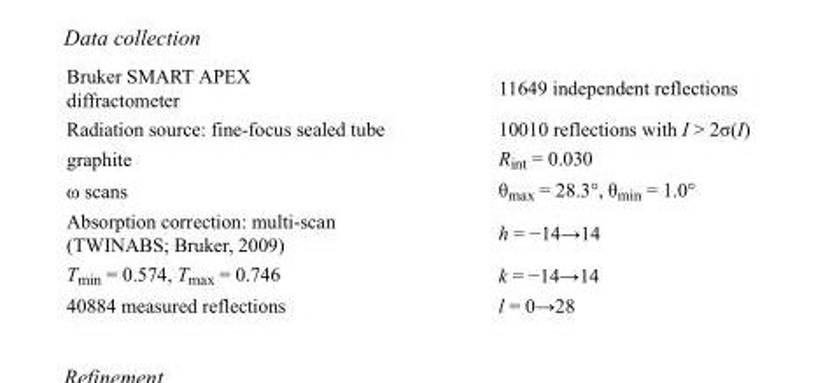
<table><tbody><tr><td>Bruker SMART APEX diffractometer</td><td>11649 independent reflections</td></tr><tr><td>Radiation source: fine-focus sealed tube</td><td>10010 reflections with I &gt; 2σ(I)</td></tr><tr><td>graphite</td><td>R<sub>int</sub> = 0.030</td></tr><tr><td>ω scans</td><td>θ<sub>max</sub> = 28.3°, θ<sub>min</sub> = 1.0°</td></tr><tr><td>Absorption correction: multi-scan (TWINABS; Bruker, 2009)</td><td>h = −14→14</td></tr><tr><td>T<sub>min</sub> = 0.574, T<sub>max</sub> = 0.746</td><td>k = −14→14</td></tr><tr><td>40884 measured reflections</td><td>l = 0→28</td></tr></tbody></table>